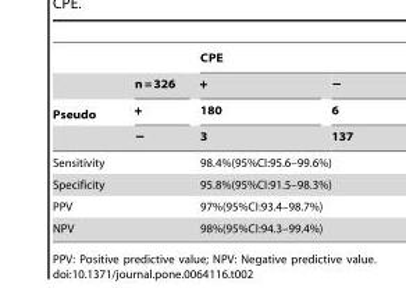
<table><thead><tr><td rowspan="4">Pseudo</td><td rowspan="4">n = 326 + −</td><td colspan="2">CPE</td></tr><tr><td rowspan="3">+ 180 3</td><td rowspan="3">− 6 137</td></tr><tr></tr><tr></tr></thead><tbody><tr><td colspan="2">Sensitivity</td><td colspan="2">98.4%(95%CI:95.6–99.6%)</td></tr><tr><td colspan="2">Specificity</td><td colspan="2">95.8%(95%CI:91.5–98.3%)</td></tr><tr><td colspan="2">PPV</td><td colspan="2">97%(95%CI:93.4–98.7%)</td></tr><tr><td colspan="2">NPV</td><td colspan="2">98%(95%CI:94.3–99.4%)</td></tr></tbody></table>